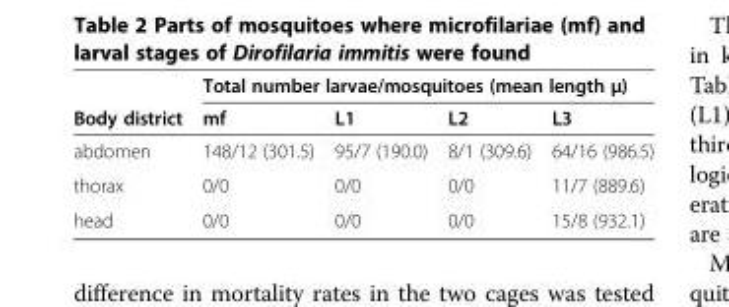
<table><thead><tr><td rowspan="2">Body district</td><td colspan="4">Total number larvae/mosquitoes (mean length μ)</td></tr><tr><td>mf</td><td>L1</td><td>L2</td><td>L3</td></tr></thead><tbody><tr><td>abdomen</td><td>148/12 (301.5)</td><td>95/7 (190.0)</td><td>8/1 (309.6)</td><td>64/16 (986.5)</td></tr><tr><td>thorax</td><td>0/0</td><td>0/0</td><td>0/0</td><td>11/7 (889.6)</td></tr><tr><td>head</td><td>0/0</td><td>0/0</td><td>0/0</td><td>15/8 (932.1)</td></tr></tbody></table>